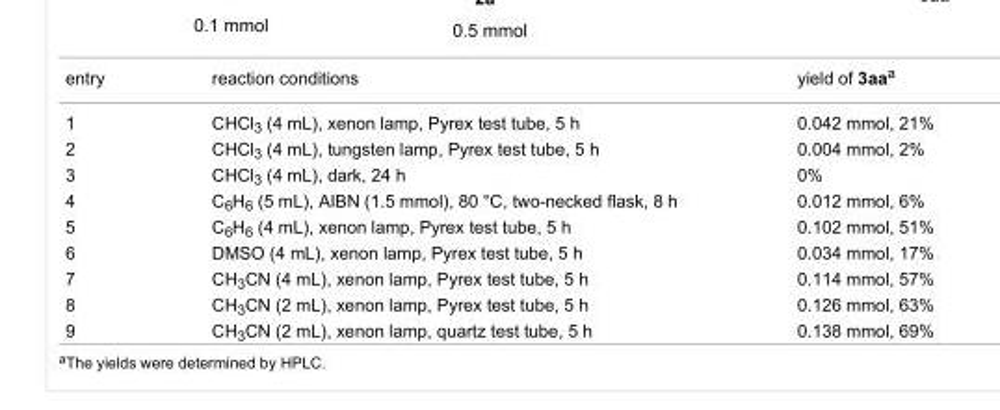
<table><tbody><tr><td>entry</td><td>reaction conditions</td><td>yield of 3aa<sup>a</sup></td></tr><tr><td>1</td><td>CHCl<sub>3</sub> (4 mL), xenon lamp, Pyrex test tube, 5 h</td><td>0.042 mmol, 21%</td></tr><tr><td>2</td><td>CHCl<sub>3</sub> (4 mL), tungsten lamp, Pyrex test tube, 5 h</td><td>0.004 mmol, 2%</td></tr><tr><td>3</td><td>CHCl<sub>3</sub> (4 mL), dark, 24 h</td><td>0%</td></tr><tr><td>4</td><td>C<sub>6</sub>H<sub>6</sub> (5 mL), AIBN (1.5 mmol), 80 °C, two-necked flask, 8 h</td><td>0.012 mmol, 6%</td></tr><tr><td>5</td><td>C<sub>6</sub>H<sub>6</sub> (4 mL), xenon lamp, Pyrex test tube, 5 h</td><td>0.102 mmol, 51%</td></tr><tr><td>6</td><td>DMSO (4 mL), xenon lamp, Pyrex test tube, 5 h</td><td>0.034 mmol, 17%</td></tr><tr><td>7</td><td>CH<sub>3</sub>CN (4 mL), xenon lamp, Pyrex test tube, 5 h</td><td>0.114 mmol, 57%</td></tr><tr><td>8</td><td>CH<sub>3</sub>CN (2 mL), xenon lamp, Pyrex test tube, 5 h</td><td>0.126 mmol, 63%</td></tr><tr><td>9</td><td>CH<sub>3</sub>CN (2 mL), xenon lamp, quartz test tube, 5 h</td><td>0.138 mmol, 69%</td></tr></tbody></table>